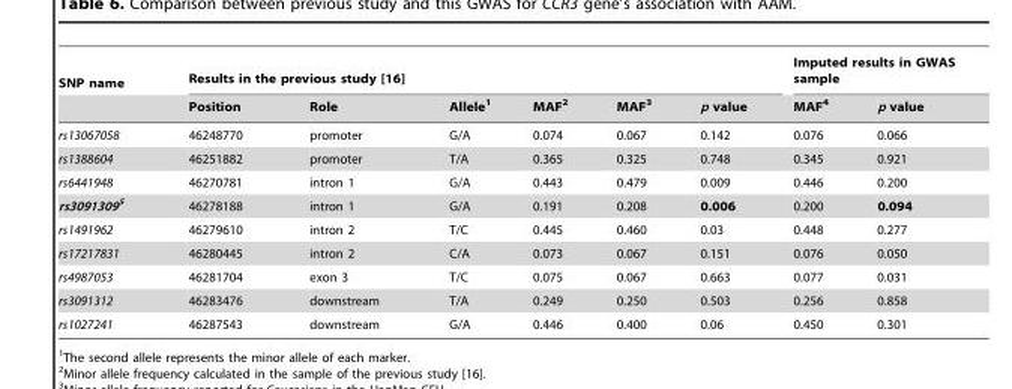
<table><thead><tr><td rowspan="2">SNP name</td><td colspan="6">Results in the previous study [16]</td><td colspan="2">Imputed results in GWAS sample</td></tr><tr><td>Position</td><td>Role</td><td>Allele<sup>1</sup></td><td>MAF<sup>2</sup></td><td>MAF<sup>3</sup></td><td>p value</td><td>MAF<sup>4</sup></td><td>p value</td></tr></thead><tbody><tr><td>rs13067058</td><td>46248770</td><td>promoter</td><td>G/A</td><td>0.074</td><td>0.067</td><td>0.142</td><td>0.076</td><td>0.066</td></tr><tr><td>rs1388604</td><td>46251882</td><td>promoter</td><td>T/A</td><td>0.365</td><td>0.325</td><td>0.748</td><td>0.345</td><td>0.921</td></tr><tr><td>rs6441948</td><td>46270781</td><td>intron 1</td><td>G/A</td><td>0.443</td><td>0.479</td><td>0.009</td><td>0.446</td><td>0.200</td></tr><tr><td>rs30913095</td><td>46278188</td><td>intron 1</td><td>G/A</td><td>0.191</td><td>0.208</td><td>0.006</td><td>0.200</td><td>0.094</td></tr><tr><td>rs1491962</td><td>46279610</td><td>intron 2</td><td>T/C</td><td>0.445</td><td>0.460</td><td>0.03</td><td>0.448</td><td>0.277</td></tr><tr><td>rs17217831</td><td>46280445</td><td>intron 2</td><td>C/A</td><td>0.073</td><td>0.067</td><td>0.151</td><td>0.076</td><td>0.050</td></tr><tr><td>rs4987053</td><td>46281704</td><td>exon 3</td><td>T/C</td><td>0.075</td><td>0.067</td><td>0.663</td><td>0.077</td><td>0.031</td></tr><tr><td>rs3091312</td><td>46283476</td><td>downstream</td><td>T/A</td><td>0.249</td><td>0.250</td><td>0.503</td><td>0.256</td><td>0.858</td></tr><tr><td>rs1027241</td><td>46287543</td><td>downstream</td><td>G/A</td><td>0.446</td><td>0.400</td><td>0.06</td><td>0.450</td><td>0.301</td></tr></tbody></table>